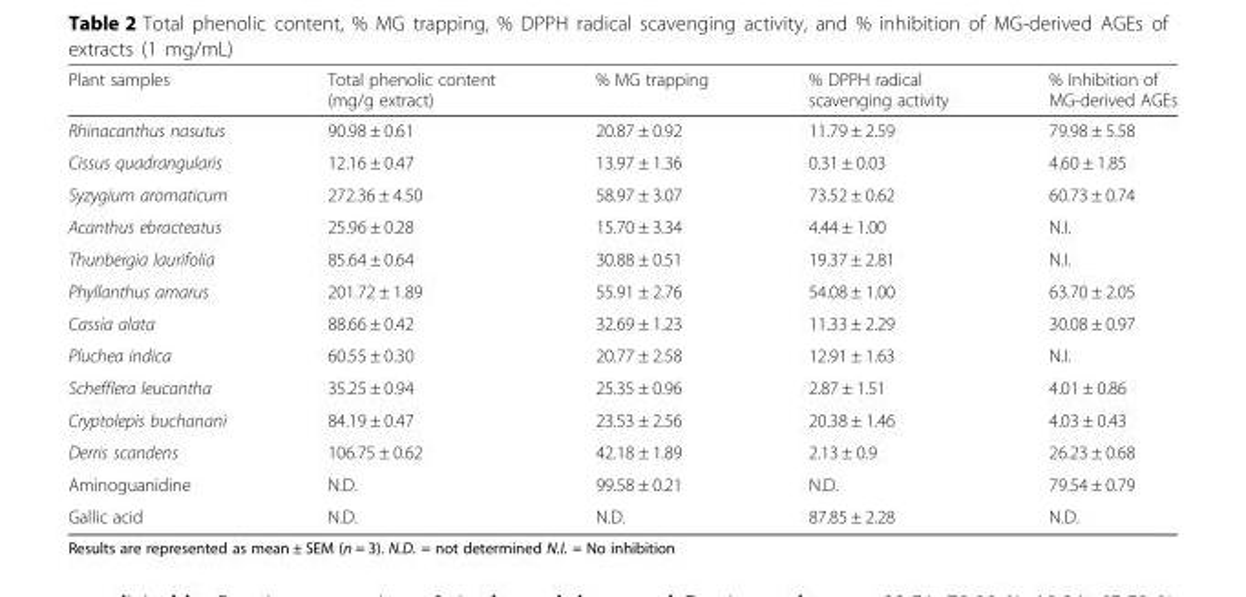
<table><thead><tr><td>Plant samples</td><td>Total phenolic content (mg/g extract)</td><td>% MG trapping</td><td>% DPPH radical scavenging activity</td><td>% Inhibition of MG-derived AGEs</td></tr></thead><tbody><tr><td>Rhinacanthus nasutus</td><td>90.98 ± 0.61</td><td>20.87 ± 0.92</td><td>11.79 ± 2.59</td><td>79.98 ± 5.58</td></tr><tr><td>Cissus quadrangularis</td><td>12.16 ± 0.47</td><td>13.97 ± 1.36</td><td>0.31 ± 0.03</td><td>4.60 ± 1.85</td></tr><tr><td>Syzygium aromaticum</td><td>272.36 ± 4.50</td><td>58.97 ± 3.07</td><td>73.52 ± 0.62</td><td>60.73 ± 0.74</td></tr><tr><td>Acanthus ebracteatus</td><td>25.96 ± 0.28</td><td>15.70 ± 3.34</td><td>4.44 ± 1.00</td><td>N.I.</td></tr><tr><td>Thunbergia laurifolia</td><td>85.64 ± 0.64</td><td>30.88 ± 0.51</td><td>19.37 ± 2.81</td><td>N.I.</td></tr><tr><td>Phyllanthus amarus</td><td>201.72 ± 1.89</td><td>55.91 ± 2.76</td><td>54.08 ± 1.00</td><td>63.70 ± 2.05</td></tr><tr><td>Cassia alata</td><td>88.66 ± 0.42</td><td>32.69 ± 1.23</td><td>11.33 ± 2.29</td><td>30.08 ± 0.97</td></tr><tr><td>Pluchea indica</td><td>60.55 ± 0.30</td><td>20.77 ± 2.58</td><td>12.91 ± 1.63</td><td>N.I.</td></tr><tr><td>Schefflera leucantha</td><td>35.25 ± 0.94</td><td>25.35 ± 0.96</td><td>2.87 ± 1.51</td><td>4.01 ± 0.86</td></tr><tr><td>Cryptolepis buchanani</td><td>84.19 ± 0.47</td><td>23.53 ± 2.56</td><td>20.38 ± 1.46</td><td>4.03 ± 0.43</td></tr><tr><td>Derris scandens</td><td>106.75 ± 0.62</td><td>42.18 ± 1.89</td><td>2.13 ± 0.9</td><td>26.23 ± 0.68</td></tr><tr><td>Aminoguanidine</td><td>N.D.</td><td>99.58 ± 0.21</td><td>N.D.</td><td>79.54 ± 0.79</td></tr><tr><td>Gallic acid</td><td>N.D.</td><td>N.D.</td><td>87.85 ± 2.28</td><td>N.D.</td></tr></tbody></table>